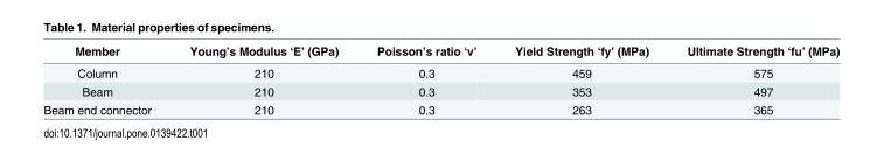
<table><thead><tr><td>Member</td><td>Young’s Modulus ‘E’ (GPa)</td><td>Poisson’s ratio ‘v’</td><td>Yield Strength ‘fy’ (MPa)</td><td>Ultimate Strength ‘fu’ (MPa)</td></tr></thead><tbody><tr><td>Column</td><td>210</td><td>0.3</td><td>459</td><td>575</td></tr><tr><td>Beam</td><td>210</td><td>0.3</td><td>353</td><td>497</td></tr><tr><td>Beam end connector</td><td>210</td><td>0.3</td><td>263</td><td>365</td></tr></tbody></table>